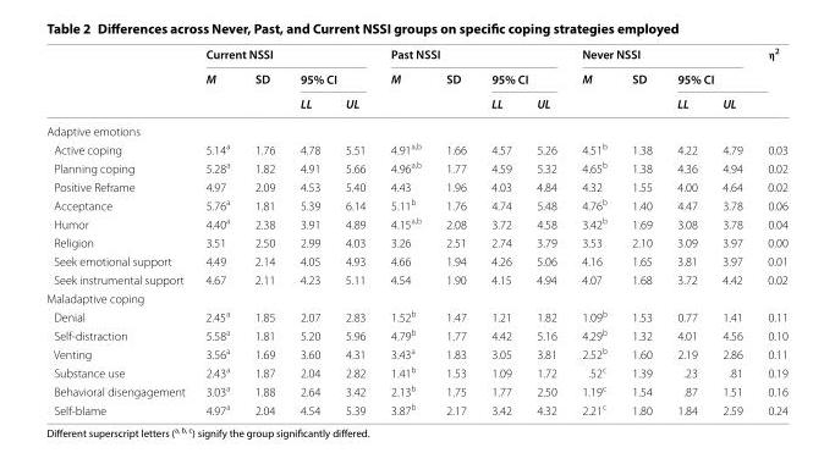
<table><thead><tr><td rowspan="3"></td><td colspan="4">Current NSSI</td><td colspan="4">Past NSSI</td><td colspan="4">Never NSSI</td><td rowspan="3">η<sup>2</sup></td></tr><tr><td rowspan="2">M</td><td rowspan="2">SD</td><td colspan="2">95% CI</td><td rowspan="2">M</td><td rowspan="2">SD</td><td colspan="2">95% CI</td><td rowspan="2">M</td><td rowspan="2">SD</td><td colspan="2">95% CI</td></tr><tr><td>LL</td><td>UL</td><td>LL</td><td>UL</td><td>LL</td><td>UL</td></tr></thead><tbody><tr><td colspan="14">Adaptive emotions</td></tr><tr><td>Active coping</td><td>5.14<sup>a</sup></td><td>1.76</td><td>4.78</td><td>5.51</td><td>4.91<sup>a,b</sup></td><td>1.66</td><td>4.57</td><td>5.26</td><td>4.51<sup>b</sup></td><td>1.38</td><td>4.22</td><td>4.79</td><td>0.03</td></tr><tr><td>Planning coping</td><td>5.28<sup>a</sup></td><td>1.82</td><td>4.91</td><td>5.66</td><td>4.96<sup>a,b</sup></td><td>1.77</td><td>4.59</td><td>5.32</td><td>4.65<sup>b</sup></td><td>1.38</td><td>4.36</td><td>4.94</td><td>0.02</td></tr><tr><td>Positive Reframe</td><td>4.97</td><td>2.09</td><td>4.53</td><td>5.40</td><td>4.43</td><td>1.96</td><td>4.03</td><td>4.84</td><td>4.32</td><td>1.55</td><td>4.00</td><td>4.64</td><td>0.02</td></tr><tr><td>Acceptance</td><td>5.76<sup>a</sup></td><td>1.81</td><td>5.39</td><td>6.14</td><td>5.11<sup>b</sup></td><td>1.76</td><td>4.74</td><td>5.48</td><td>4.76<sup>b</sup></td><td>1.40</td><td>4.47</td><td>3.78</td><td>0.06</td></tr><tr><td>Humor</td><td>4.40<sup>a</sup></td><td>2.38</td><td>3.91</td><td>4.89</td><td>4.15<sup>a,b</sup></td><td>2.08</td><td>3.72</td><td>4.58</td><td>3.42<sup>b</sup></td><td>1.69</td><td>3.08</td><td>3.78</td><td>0.04</td></tr><tr><td>Religion</td><td>3.51</td><td>2.50</td><td>2.99</td><td>4.03</td><td>3.26</td><td>2.51</td><td>2.74</td><td>3.79</td><td>3.53</td><td>2.10</td><td>3.09</td><td>3.97</td><td>0.00</td></tr><tr><td>Seek emotional support</td><td>4.49</td><td>2.14</td><td>4.05</td><td>4.93</td><td>4.66</td><td>1.94</td><td>4.26</td><td>5.06</td><td>4.16</td><td>1.65</td><td>3.81</td><td>3.97</td><td>0.01</td></tr><tr><td>Seek instrumental support</td><td>4.67</td><td>2.11</td><td>4.23</td><td>5.11</td><td>4.54</td><td>1.90</td><td>4.15</td><td>4.94</td><td>4.07</td><td>1.68</td><td>3.72</td><td>4.42</td><td>0.02</td></tr><tr><td colspan="14">Maladaptive coping</td></tr><tr><td>Denial</td><td>2.45<sup>a</sup></td><td>1.85</td><td>2.07</td><td>2.83</td><td>1.52<sup>b</sup></td><td>1.47</td><td>1.21</td><td>1.82</td><td>1.09<sup>b</sup></td><td>1.53</td><td>0.77</td><td>1.41</td><td>0.11</td></tr><tr><td>Self-distraction</td><td>5.58<sup>a</sup></td><td>1.81</td><td>5.20</td><td>5.96</td><td>4.79<sup>b</sup></td><td>1.77</td><td>4.42</td><td>5.16</td><td>4.29<sup>b</sup></td><td>1.32</td><td>4.01</td><td>4.56</td><td>0.10</td></tr><tr><td>Venting</td><td>3.56<sup>a</sup></td><td>1.69</td><td>3.60</td><td>4.31</td><td>3.43<sup>a</sup></td><td>1.83</td><td>3.05</td><td>3.81</td><td>2.52<sup>b</sup></td><td>1.60</td><td>2.19</td><td>2.86</td><td>0.11</td></tr><tr><td>Substance use</td><td>2.43<sup>a</sup></td><td>1.87</td><td>2.04</td><td>2.82</td><td>1.41<sup>b</sup></td><td>1.53</td><td>1.09</td><td>1.72</td><td>.52<sup>c</sup></td><td>1.39</td><td>.23</td><td>.81</td><td>0.19</td></tr><tr><td>Behavioral disengagement</td><td>3.03<sup>a</sup></td><td>1.88</td><td>2.64</td><td>3.42</td><td>2.13<sup>b</sup></td><td>1.75</td><td>1.77</td><td>2.50</td><td>1.19<sup>c</sup></td><td>1.54</td><td>.87</td><td>1.51</td><td>0.16</td></tr><tr><td>Self-blame</td><td>4.97<sup>a</sup></td><td>2.04</td><td>4.54</td><td>5.39</td><td>3.87<sup>b</sup></td><td>2.17</td><td>3.42</td><td>4.32</td><td>2.21<sup>c</sup></td><td>1.80</td><td>1.84</td><td>2.59</td><td>0.24</td></tr></tbody></table>